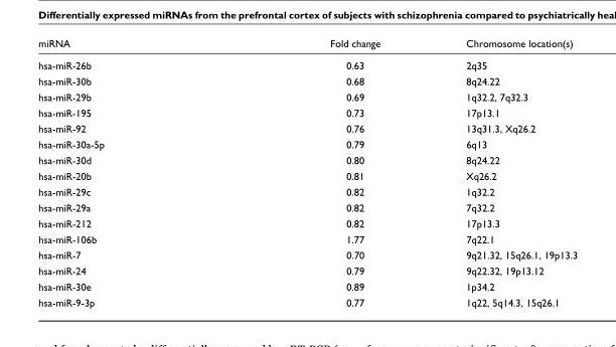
<table><thead><tr><td>miRNA</td><td>Fold change</td><td>Chromosome location(s)</td></tr></thead><tbody><tr><td>hsa-miR-26b</td><td>0.63</td><td>2q35</td></tr><tr><td>hsa-miR-30b</td><td>0.68</td><td>8q24.22</td></tr><tr><td>hsa-miR-29b</td><td>0.69</td><td>1q32.2, 7q32.3</td></tr><tr><td>hsa-miR-195</td><td>0.73</td><td>17p13.1</td></tr><tr><td>hsa-miR-92</td><td>0.76</td><td>13q31.3, Xq26.2</td></tr><tr><td>hsa-miR-30a-5p</td><td>0.79</td><td>6q13</td></tr><tr><td>hsa-miR-30d</td><td>0.80</td><td>8q24.22</td></tr><tr><td>hsa-miR-20b</td><td>0.81</td><td>Xq26.2</td></tr><tr><td>hsa-miR-29c</td><td>0.82</td><td>1q32.2</td></tr><tr><td>hsa-miR-29a</td><td>0.82</td><td>7q32.2</td></tr><tr><td>hsa-miR-212</td><td>0.82</td><td>17p13.3</td></tr><tr><td>hsa-miR-106b</td><td>1.77</td><td>7q22.1</td></tr><tr><td>hsa-miR-7</td><td>0.70</td><td>9q21.32, 15q26.1, 19p13.3</td></tr><tr><td>hsa-miR-24</td><td>0.79</td><td>9q22.32, 19p13.12</td></tr><tr><td>hsa-miR-30e</td><td>0.89</td><td>1p34.2</td></tr><tr><td>hsa-miR-9-3p</td><td>0.77</td><td>1q22, 5q14.3, 15q26.1</td></tr></tbody></table>